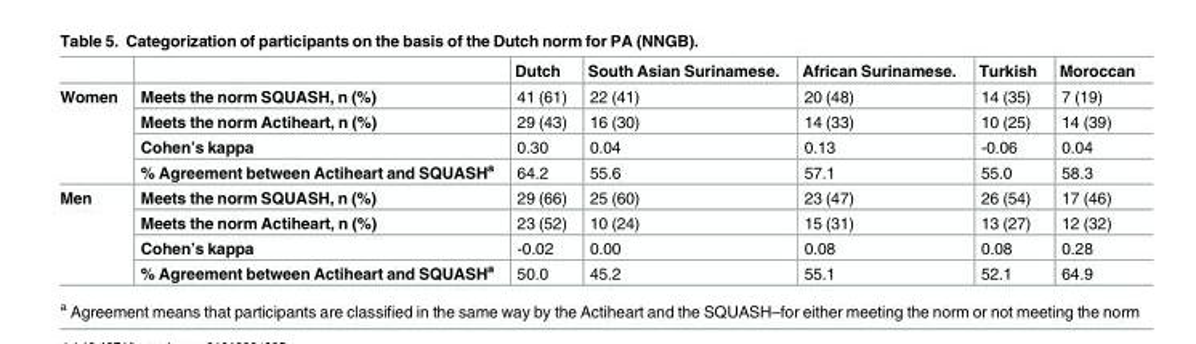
<table><thead><tr><td></td><td></td><td>Dutch</td><td>South Asian Surinamese.</td><td>African Surinamese.</td><td>Turkish</td><td>Moroccan</td></tr></thead><tbody><tr><td rowspan="4">Women</td><td>Meets the norm SQUASH, n (%)</td><td>41 (61)</td><td>22 (41)</td><td>20 (48)</td><td>14 (35)</td><td>7 (19)</td></tr><tr><td>Meets the norm Actiheart, n (%)</td><td>29 (43)</td><td>16 (30)</td><td>14 (33)</td><td>10 (25)</td><td>14 (39)</td></tr><tr><td>Cohen’s kappa</td><td>0.30</td><td>0.04</td><td>0.13</td><td>-0.06</td><td>0.04</td></tr><tr><td>% Agreement between Actiheart and SQUASH<sup>a</sup></td><td>64.2</td><td>55.6</td><td>57.1</td><td>55.0</td><td>58.3</td></tr><tr><td rowspan="4">Men</td><td>Meets the norm SQUASH, n (%)</td><td>29 (66)</td><td>25 (60)</td><td>23 (47)</td><td>26 (54)</td><td>17 (46)</td></tr><tr><td>Meets the norm Actiheart, n (%)</td><td>23 (52)</td><td>10 (24)</td><td>15 (31)</td><td>13 (27)</td><td>12 (32)</td></tr><tr><td>Cohen’s kappa</td><td>-0.02</td><td>0.00</td><td>0.08</td><td>0.08</td><td>0.28</td></tr><tr><td>% Agreement between Actiheart and SQUASH<sup>a</sup></td><td>50.0</td><td>45.2</td><td>55.1</td><td>52.1</td><td>64.9</td></tr></tbody></table>